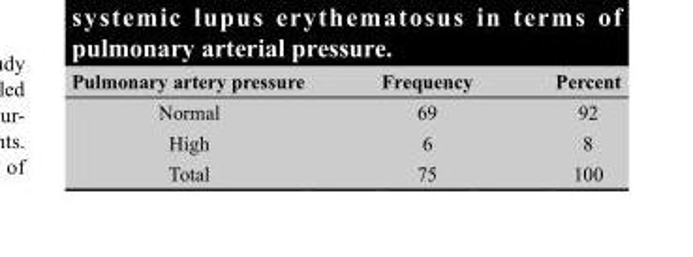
<table><thead><tr><td>Pulmonary artery pressure</td><td>Frequency</td><td>Percent</td></tr></thead><tbody><tr><td>Normal</td><td>69</td><td>92</td></tr><tr><td>High</td><td>6</td><td>8</td></tr><tr><td>Total</td><td>75</td><td>100</td></tr></tbody></table>